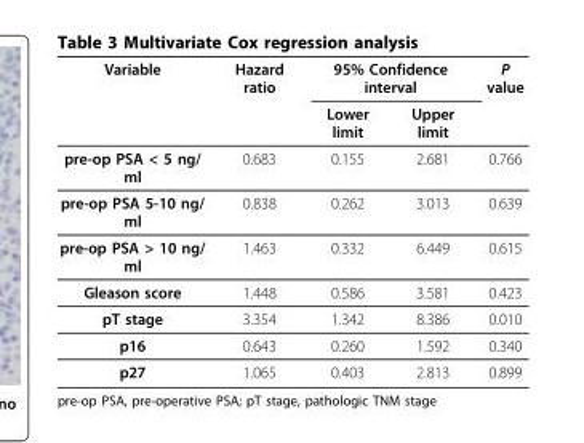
<table><thead><tr><td rowspan="2">Variable</td><td rowspan="2">Hazard ratio</td><td colspan="2">95% Confidence interval</td><td rowspan="2">P value</td></tr><tr><td>Lower limit</td><td>Upper limit</td></tr></thead><tbody><tr><td>pre-op PSA &lt; 5 ng/ ml</td><td>0.683</td><td>0.155</td><td>2.681</td><td>0.766</td></tr><tr><td>pre-op PSA 5-10 ng/ ml</td><td>0.838</td><td>0.262</td><td>3.013</td><td>0.639</td></tr><tr><td>pre-op PSA &gt; 10 ng/ ml</td><td>1.463</td><td>0.332</td><td>6.449</td><td>0.615</td></tr><tr><td>Gleason score</td><td>1.448</td><td>0.586</td><td>3.581</td><td>0.423</td></tr><tr><td>pT stage</td><td>3.354</td><td>1.342</td><td>8.386</td><td>0.010</td></tr><tr><td>p16</td><td>0.643</td><td>0.260</td><td>1.592</td><td>0.340</td></tr><tr><td>p27</td><td>1.065</td><td>0.403</td><td>2.813</td><td>0.899</td></tr></tbody></table>